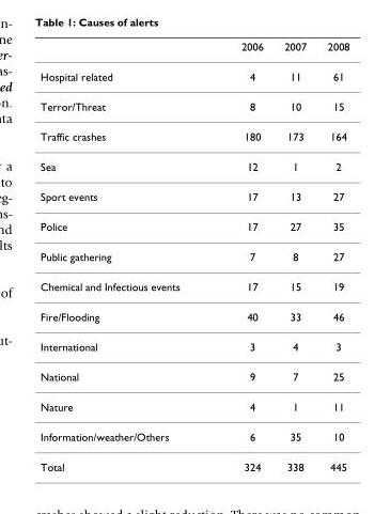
<table><thead><tr><td></td><td>2006</td><td>2007</td><td>2008</td></tr></thead><tbody><tr><td>Hospital related</td><td>4</td><td>11</td><td>61</td></tr><tr><td>Terror/Threat</td><td>8</td><td>10</td><td>15</td></tr><tr><td>Traffic crashes</td><td>180</td><td>173</td><td>164</td></tr><tr><td>Sea</td><td>12</td><td>1</td><td>2</td></tr><tr><td>Sport events</td><td>17</td><td>13</td><td>27</td></tr><tr><td>Police</td><td>17</td><td>27</td><td>35</td></tr><tr><td>Public gathering</td><td>7</td><td>8</td><td>27</td></tr><tr><td>Chemical and Infectious events</td><td>17</td><td>15</td><td>19</td></tr><tr><td>Fire/Flooding</td><td>40</td><td>33</td><td>46</td></tr><tr><td>International</td><td>3</td><td>4</td><td>3</td></tr><tr><td>National</td><td>9</td><td>7</td><td>25</td></tr><tr><td>Nature</td><td>4</td><td>1</td><td>11</td></tr><tr><td>Information/weather/Others</td><td>6</td><td>35</td><td>10</td></tr><tr><td>Total</td><td>324</td><td>338</td><td>445</td></tr></tbody></table>